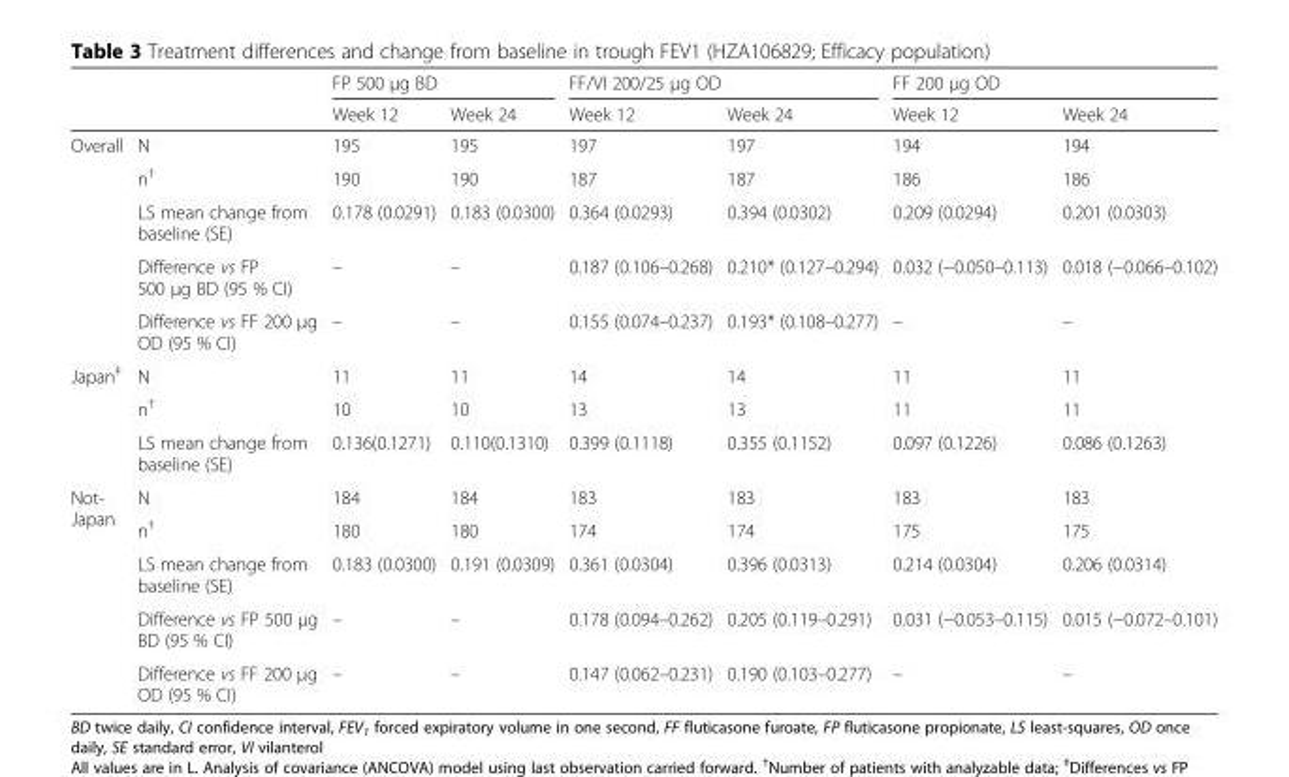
<table><thead><tr><td rowspan="2"></td><td rowspan="2"></td><td colspan="2">FP 500 μg BD</td><td colspan="2">FF/VI 200/25 μg OD</td><td colspan="2">FF 200 μg OD</td></tr><tr><td>Week 12</td><td>Week 24</td><td>Week 12</td><td>Week 24</td><td>Week 12</td><td>Week 24</td></tr></thead><tbody><tr><td rowspan="5">Overall</td><td>N</td><td>195</td><td>195</td><td>197</td><td>197</td><td>194</td><td>194</td></tr><tr><td>n<sup>†</sup></td><td>190</td><td>190</td><td>187</td><td>187</td><td>186</td><td>186</td></tr><tr><td>LS mean change from baseline (SE)</td><td>0.178 (0.0291)</td><td>0.183 (0.0300)</td><td>0.364 (0.0293)</td><td>0.394 (0.0302)</td><td>0.209 (0.0294)</td><td>0.201 (0.0303)</td></tr><tr><td>Difference vs FP 500 μg BD (95 % CI)</td><td>–</td><td>–</td><td>0.187 (0.106–0.268)</td><td>0.210* (0.127–0.294)</td><td>0.032 (−0.050–0.113)</td><td>0.018 (−0.066–0.102)</td></tr><tr><td>Difference vs FF 200 μg OD (95 % CI)</td><td>–</td><td>–</td><td>0.155 (0.074–0.237)</td><td>0.193* (0.108–0.277)</td><td>–</td><td>–</td></tr><tr><td rowspan="3">Japan<sup>‡</sup></td><td>N</td><td>11</td><td>11</td><td>14</td><td>14</td><td>11</td><td>11</td></tr><tr><td>n<sup>†</sup></td><td>10</td><td>10</td><td>13</td><td>13</td><td>11</td><td>11</td></tr><tr><td>LS mean change from baseline (SE)</td><td>0.136(0.1271)</td><td>0.110(0.1310)</td><td>0.399 (0.1118)</td><td>0.355 (0.1152)</td><td>0.097 (0.1226)</td><td>0.086 (0.1263)</td></tr><tr><td rowspan="5">Not- Japan</td><td>N</td><td>184</td><td>184</td><td>183</td><td>183</td><td>183</td><td>183</td></tr><tr><td>n<sup>†</sup></td><td>180</td><td>180</td><td>174</td><td>174</td><td>175</td><td>175</td></tr><tr><td>LS mean change from baseline (SE)</td><td>0.183 (0.0300)</td><td>0.191 (0.0309)</td><td>0.361 (0.0304)</td><td>0.396 (0.0313)</td><td>0.214 (0.0304)</td><td>0.206 (0.0314)</td></tr><tr><td>Difference vs FP 500 μg BD (95 % CI)</td><td>–</td><td>–</td><td>0.178 (0.094–0.262)</td><td>0.205 (0.119–0.291)</td><td>0.031 (−0.053–0.115)</td><td>0.015 (−0.072–0.101)</td></tr><tr><td>Difference vs FF 200 μg OD (95 % CI)</td><td>–</td><td>–</td><td>0.147 (0.062–0.231)</td><td>0.190 (0.103–0.277)</td><td>–</td><td>–</td></tr></tbody></table>